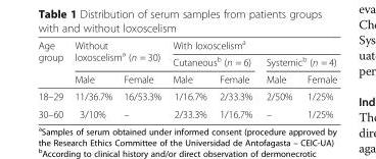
<table><thead><tr><td rowspan="3">Age group</td><td rowspan="2" colspan="2">Without loxoscelism<sup>a</sup> (n = 30)</td><td colspan="4">With loxoscelism<sup>a</sup></td></tr><tr><td colspan="2">Cutaneous<sup>b</sup> (n = 6)</td><td colspan="2">Systemic<sup>b</sup> (n = 4)</td></tr><tr><td>Male</td><td>Female</td><td>Male</td><td>Female</td><td>Male</td><td>Female</td></tr></thead><tbody><tr><td>18–29</td><td>11/36.7%</td><td>16/53.3%</td><td>1/16.7%</td><td>2/33.3%</td><td>2/50%</td><td>1/25%</td></tr><tr><td>30–60</td><td>3/10%</td><td>–</td><td>2/33.3%</td><td>1/16.7%</td><td>–</td><td>1/25%</td></tr></tbody></table>